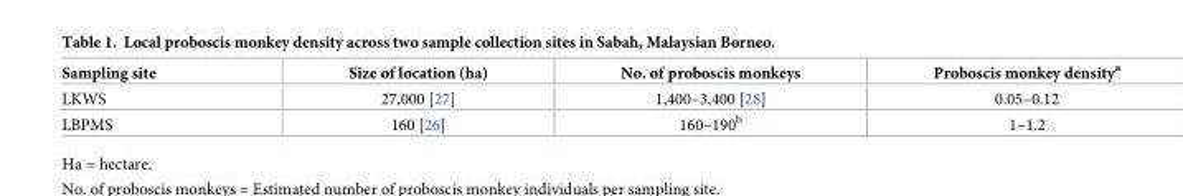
<table><thead><tr><td>Sampling site</td><td>Size of location (ha)</td><td>No. of proboscis monkeys</td><td>Proboscis monkey density<sup>a</sup></td></tr></thead><tbody><tr><td>LKWS</td><td>27,000 [27]</td><td>1,400–3,400 [28]</td><td>0.05–0.12</td></tr><tr><td>LBPMS</td><td>160 [26]</td><td>160–190<sup>b</sup></td><td>1–1.2</td></tr></tbody></table>